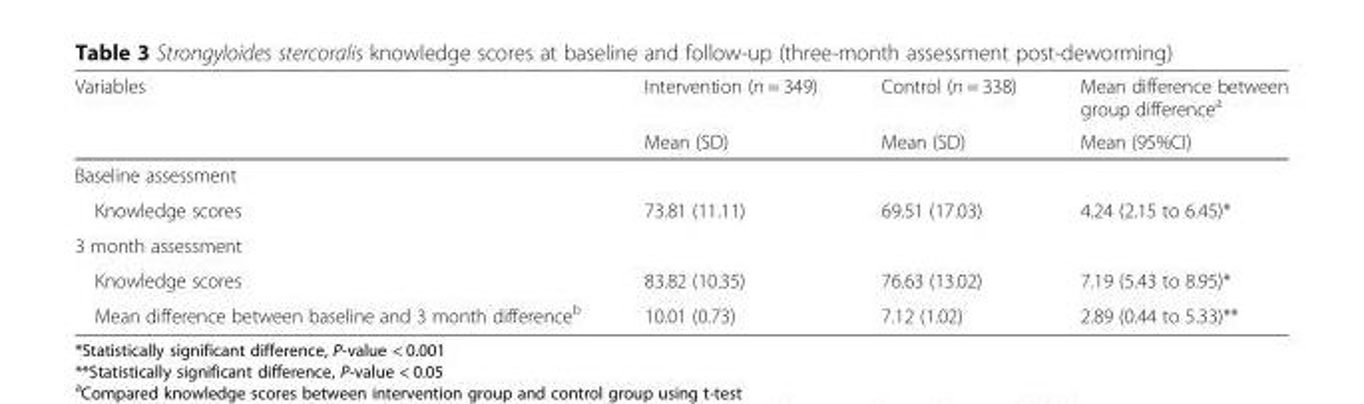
<table><thead><tr><td rowspan="2">Variables</td><td rowspan="2">Intervention (n = 349) Mean (SD)</td><td rowspan="2">Control (n = 338) Mean (SD)</td><td rowspan="2">Mean difference between group difference<sup>a</sup> Mean (95%CI)</td></tr><tr></tr></thead><tbody><tr><td colspan="4">Baseline assessment</td></tr><tr><td>Knowledge scores</td><td>73.81 (11.11)</td><td>69.51 (17.03)</td><td>4.24 (2.15 to 6.45)*</td></tr><tr><td colspan="4">3 month assessment</td></tr><tr><td>Knowledge scores</td><td>83.82 (10.35)</td><td>76.63 (13.02)</td><td>7.19 (5.43 to 8.95)*</td></tr><tr><td>Mean difference between baseline and 3 month difference<sup>b</sup></td><td>10.01 (0.73)</td><td>7.12 (1.02)</td><td>2.89 (0.44 to 5.33)**</td></tr></tbody></table>